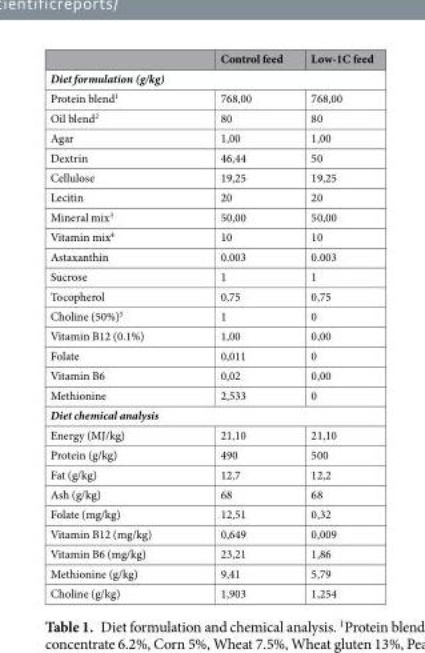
<table><thead><tr><td></td><td>Control feed</td><td>Low-1C feed</td></tr></thead><tbody><tr><td colspan="3">Diet formulation (g/kg)</td></tr><tr><td>Protein blend<sup>1</sup></td><td>768,00</td><td>768,00</td></tr><tr><td>Oil blend<sup>2</sup></td><td>80</td><td>80</td></tr><tr><td>Agar</td><td>1,00</td><td>1,00</td></tr><tr><td>Dextrin</td><td>46,44</td><td>50</td></tr><tr><td>Cellulose</td><td>19,25</td><td>19,25</td></tr><tr><td>Lecitin</td><td>20</td><td>20</td></tr><tr><td>Mineral mix<sup>3</sup></td><td>50,00</td><td>50,00</td></tr><tr><td>Vitamin mix<sup>4</sup></td><td>10</td><td>10</td></tr><tr><td>Astaxanthin</td><td>0.003</td><td>0.003</td></tr><tr><td>Sucrose</td><td>1</td><td>1</td></tr><tr><td>Tocopherol</td><td>0,75</td><td>0,75</td></tr><tr><td>Choline (50%)<sup>5</sup></td><td>1</td><td>0</td></tr><tr><td>Vitamin B12 (0.1%)</td><td>1,00</td><td>0,00</td></tr><tr><td>Folate</td><td>0,011</td><td>0</td></tr><tr><td>Vitamin B6</td><td>0,02</td><td>0,00</td></tr><tr><td>Methionine</td><td>2,533</td><td>0</td></tr><tr><td colspan="3">Diet chemical analysis</td></tr><tr><td>Energy (MJ/kg)</td><td>21,10</td><td>21,10</td></tr><tr><td>Protein (g/kg)</td><td>490</td><td>500</td></tr><tr><td>Fat (g/kg)</td><td>12,7</td><td>12,2</td></tr><tr><td>Ash (g/kg)</td><td>68</td><td>68</td></tr><tr><td>Folate (mg/kg)</td><td>12,51</td><td>0,32</td></tr><tr><td>Vitamin B12 (mg/kg)</td><td>0,649</td><td>0,009</td></tr><tr><td>Vitamin B6 (mg/kg)</td><td>23,21</td><td>1,86</td></tr><tr><td>Methionine (g/kg)</td><td>9,41</td><td>5,79</td></tr><tr><td>Choline (g/kg)</td><td>1,903</td><td>1,254</td></tr></tbody></table>